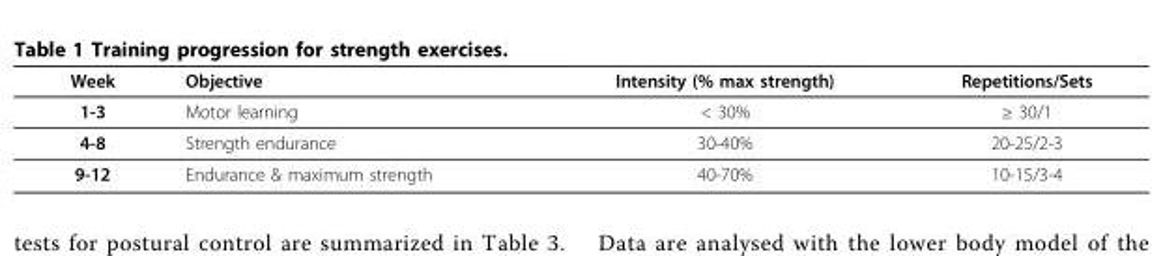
<table><thead><tr><td>Week</td><td>Objective</td><td>Intensity (% max strength)</td><td>Repetitions/Sets</td></tr></thead><tbody><tr><td>1-3</td><td>Motor learning</td><td>&lt; 30%</td><td>≥ 30/1</td></tr><tr><td>4-8</td><td>Strength endurance</td><td>30-40%</td><td>20-25/2-3</td></tr><tr><td>9-12</td><td>Endurance &amp; maximum strength</td><td>40-70%</td><td>10-15/3-4</td></tr></tbody></table>